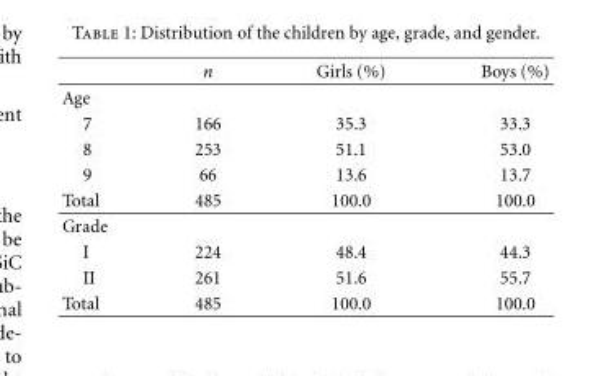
<table><thead><tr><td></td><td>n</td><td>Girls (%)</td><td>Boys (%)</td></tr></thead><tbody><tr><td colspan="4">Age</td></tr><tr><td>7</td><td>166</td><td>35.3</td><td>33.3</td></tr><tr><td>8</td><td>253</td><td>51.1</td><td>53.0</td></tr><tr><td>9</td><td>66</td><td>13.6</td><td>13.7</td></tr><tr><td>Total</td><td>485</td><td>100.0</td><td>100.0</td></tr><tr><td colspan="4">Grade</td></tr><tr><td>I</td><td>224</td><td>48.4</td><td>44.3</td></tr><tr><td>II</td><td>261</td><td>51.6</td><td>55.7</td></tr><tr><td>Total</td><td>485</td><td>100.0</td><td>100.0</td></tr></tbody></table>